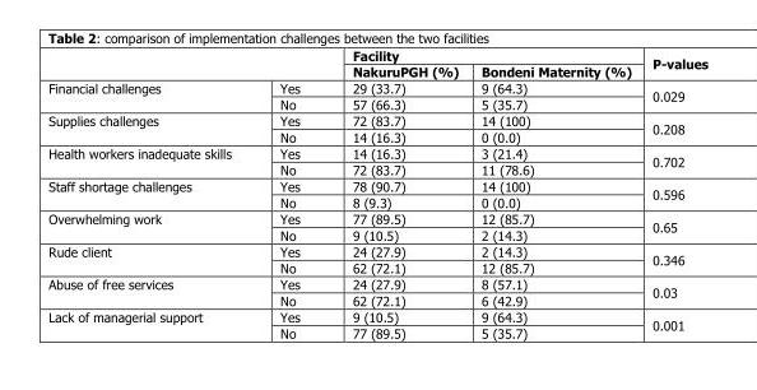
<table><thead><tr><td rowspan="2"></td><td rowspan="2"></td><td colspan="2">Facility</td><td rowspan="2">P-values</td></tr><tr><td>NakuruPGH (%)</td><td>Bondeni Maternity (%)</td></tr></thead><tbody><tr><td rowspan="2">Financial challenges</td><td>Yes</td><td>29 (33.7)</td><td>9 (64.3)</td><td rowspan="2">0.029</td></tr><tr><td>No</td><td>57 (66.3)</td><td>5 (35.7)</td></tr><tr><td rowspan="2">Supplies challenges</td><td>Yes</td><td>72 (83.7)</td><td>14 (100)</td><td rowspan="2">0.208</td></tr><tr><td>No</td><td>14 (16.3)</td><td>0 (0.0)</td></tr><tr><td rowspan="2">Health workers inadequate skills</td><td>Yes</td><td>14 (16.3)</td><td>3 (21.4)</td><td rowspan="2">0.702</td></tr><tr><td>No</td><td>72 (83.7)</td><td>11 (78.6)</td></tr><tr><td rowspan="2">Staff shortage challenges</td><td>Yes</td><td>78 (90.7)</td><td>14 (100)</td><td rowspan="2">0.596</td></tr><tr><td>No</td><td>8 (9.3)</td><td>0 (0.0)</td></tr><tr><td rowspan="2">Overwhelming work</td><td>Yes</td><td>77 (89.5)</td><td>12 (85.7)</td><td rowspan="2">0.65</td></tr><tr><td>No</td><td>9 (10.5)</td><td>2 (14.3)</td></tr><tr><td rowspan="2">Rude client</td><td>Yes</td><td>24 (27.9)</td><td>2 (14.3)</td><td rowspan="2">0.346</td></tr><tr><td>No</td><td>62 (72.1)</td><td>12 (85.7)</td></tr><tr><td rowspan="2">Abuse of free services</td><td>Yes</td><td>24 (27.9)</td><td>8 (57.1)</td><td rowspan="2">0.03</td></tr><tr><td>No</td><td>62 (72.1)</td><td>6 (42.9)</td></tr><tr><td rowspan="2">Lack of managerial support</td><td>Yes</td><td>9 (10.5)</td><td>9 (64.3)</td><td rowspan="2">0.001</td></tr><tr><td>No</td><td>77 (89.5)</td><td>5 (35.7)</td></tr></tbody></table>